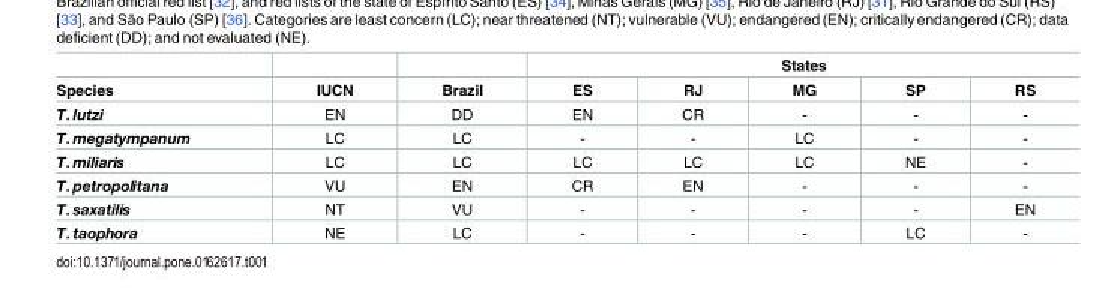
<table><thead><tr><td rowspan="2">Species</td><td rowspan="2">IUCN</td><td rowspan="2">Brazil</td><td colspan="5">States</td></tr><tr><td>ES</td><td>RJ</td><td>MG</td><td>SP</td><td>RS</td></tr></thead><tbody><tr><td>T. lutzi</td><td>EN</td><td>DD</td><td>EN</td><td>CR</td><td>-</td><td>-</td><td>-</td></tr><tr><td>T. megatympanum</td><td>LC</td><td>LC</td><td>-</td><td>-</td><td>LC</td><td>-</td><td>-</td></tr><tr><td>T. miliaris</td><td>LC</td><td>LC</td><td>LC</td><td>LC</td><td>LC</td><td>NE</td><td>-</td></tr><tr><td>T. petropolitana</td><td>VU</td><td>EN</td><td>CR</td><td>EN</td><td>-</td><td>-</td><td>-</td></tr><tr><td>T. saxatilis</td><td>NT</td><td>VU</td><td>-</td><td>-</td><td>-</td><td>-</td><td>EN</td></tr><tr><td>T. taophora</td><td>NE</td><td>LC</td><td>-</td><td>-</td><td>-</td><td>LC</td><td>-</td></tr></tbody></table>